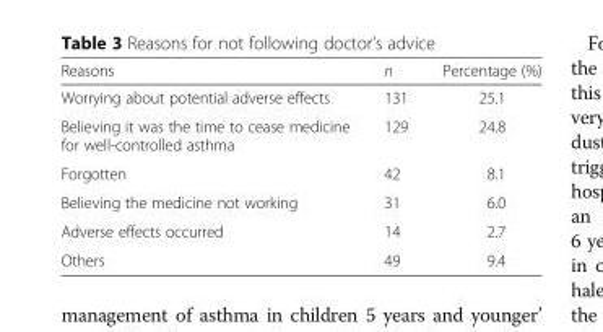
<table><thead><tr><td>Reasons</td><td>n</td><td>Percentage (%)</td></tr></thead><tbody><tr><td>Worrying about potential adverse effects</td><td>131</td><td>25.1</td></tr><tr><td>Believing it was the time to cease medicine for well-controlled asthma</td><td>129</td><td>24.8</td></tr><tr><td>Forgotten</td><td>42</td><td>8.1</td></tr><tr><td>Believing the medicine not working</td><td>31</td><td>6.0</td></tr><tr><td>Adverse effects occurred</td><td>14</td><td>2.7</td></tr><tr><td>Others</td><td>49</td><td>9.4</td></tr></tbody></table>